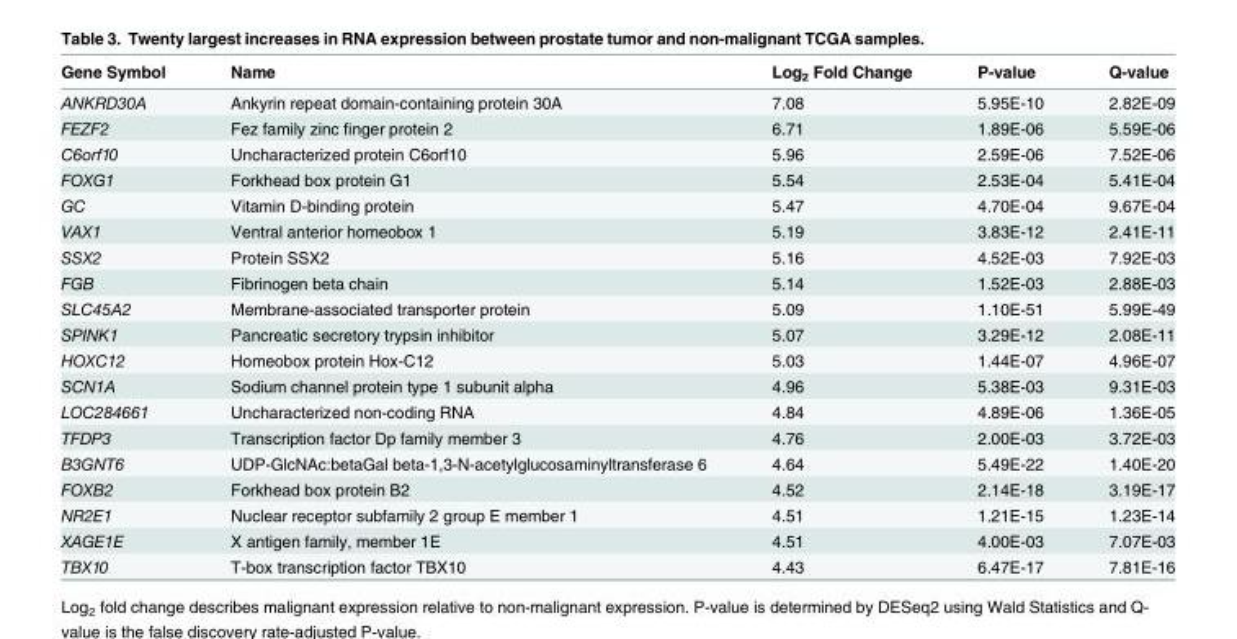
<table><thead><tr><td>Gene Symbol</td><td>Name</td><td>Log<sub>2</sub> Fold Change</td><td>P-value</td><td>Q-value</td></tr></thead><tbody><tr><td>ANKRD30A</td><td>Ankyrin repeat domain-containing protein 30A</td><td>7.08</td><td>5.95E-10</td><td>2.82E-09</td></tr><tr><td>FEZF2</td><td>Fez family zinc finger protein 2</td><td>6.71</td><td>1.89E-06</td><td>5.59E-06</td></tr><tr><td>C6orf10</td><td>Uncharacterized protein C6orf10</td><td>5.96</td><td>2.59E-06</td><td>7.52E-06</td></tr><tr><td>FOXG1</td><td>Forkhead box protein G1</td><td>5.54</td><td>2.53E-04</td><td>5.41E-04</td></tr><tr><td>GC</td><td>Vitamin D-binding protein</td><td>5.47</td><td>4.70E-04</td><td>9.67E-04</td></tr><tr><td>VAX1</td><td>Ventral anterior homeobox 1</td><td>5.19</td><td>3.83E-12</td><td>2.41E-11</td></tr><tr><td>SSX2</td><td>Protein SSX2</td><td>5.16</td><td>4.52E-03</td><td>7.92E-03</td></tr><tr><td>FGB</td><td>Fibrinogen beta chain</td><td>5.14</td><td>1.52E-03</td><td>2.88E-03</td></tr><tr><td>SLC45A2</td><td>Membrane-associated transporter protein</td><td>5.09</td><td>1.10E-51</td><td>5.99E-49</td></tr><tr><td>SPINK1</td><td>Pancreatic secretory trypsin inhibitor</td><td>5.07</td><td>3.29E-12</td><td>2.08E-11</td></tr><tr><td>HOXC12</td><td>Homeobox protein Hox-C12</td><td>5.03</td><td>1.44E-07</td><td>4.96E-07</td></tr><tr><td>SCN1A</td><td>Sodium channel protein type 1 subunit alpha</td><td>4.96</td><td>5.38E-03</td><td>9.31E-03</td></tr><tr><td>LOC284661</td><td>Uncharacterized non-coding RNA</td><td>4.84</td><td>4.89E-06</td><td>1.36E-05</td></tr><tr><td>TFDP3</td><td>Transcription factor Dp family member 3</td><td>4.76</td><td>2.00E-03</td><td>3.72E-03</td></tr><tr><td>B3GNT6</td><td>UDP-GlcNAc:betaGal beta-1,3-N-acetylglucosaminyltransferase 6</td><td>4.64</td><td>5.49E-22</td><td>1.40E-20</td></tr><tr><td>FOXB2</td><td>Forkhead box protein B2</td><td>4.52</td><td>2.14E-18</td><td>3.19E-17</td></tr><tr><td>NR2E1</td><td>Nuclear receptor subfamily 2 group E member 1</td><td>4.51</td><td>1.21E-15</td><td>1.23E-14</td></tr><tr><td>XAGE1E</td><td>X antigen family, member 1E</td><td>4.51</td><td>4.00E-03</td><td>7.07E-03</td></tr><tr><td>TBX10</td><td>T-box transcription factor TBX10</td><td>4.43</td><td>6.47E-17</td><td>7.81E-16</td></tr></tbody></table>